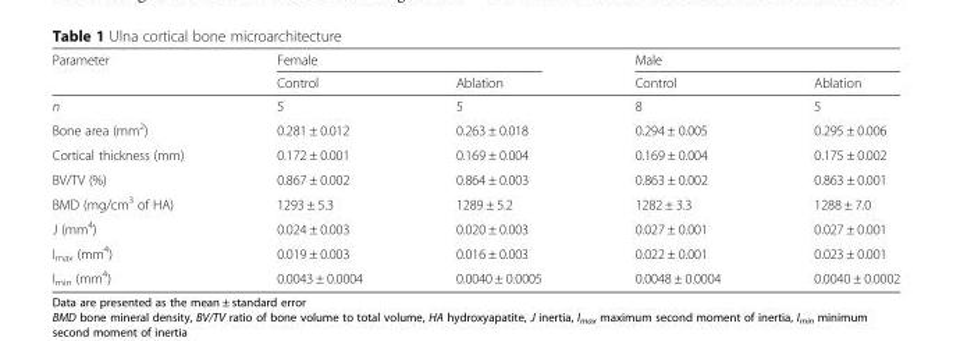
<table><thead><tr><td rowspan="2">Parameter</td><td colspan="2">Female</td><td colspan="2">Male</td></tr><tr><td>Control</td><td>Ablation</td><td>Control</td><td>Ablation</td></tr></thead><tbody><tr><td>n</td><td>5</td><td>5</td><td>8</td><td>5</td></tr><tr><td>Bone area (mm<sup>2</sup>)</td><td>0.281 ± 0.012</td><td>0.263 ± 0.018</td><td>0.294 ± 0.005</td><td>0.295 ± 0.006</td></tr><tr><td>Cortical thickness (mm)</td><td>0.172 ± 0.001</td><td>0.169 ± 0.004</td><td>0.169 ± 0.004</td><td>0.175 ± 0.002</td></tr><tr><td>BV/TV (%)</td><td>0.867 ± 0.002</td><td>0.864 ± 0.003</td><td>0.863 ± 0.002</td><td>0.863 ± 0.001</td></tr><tr><td>BMD (mg/cm<sup>3</sup> of HA)</td><td>1293 ± 5.3</td><td>1289 ± 5.2</td><td>1282 ± 3.3</td><td>1288 ± 7.0</td></tr><tr><td>J (mm<sup>4</sup>)</td><td>0.024 ± 0.003</td><td>0.020 ± 0.003</td><td>0.027 ± 0.001</td><td>0.027 ± 0.001</td></tr><tr><td>I<sub>max</sub> (mm<sup>4</sup>)</td><td>0.019 ± 0.003</td><td>0.016 ± 0.003</td><td>0.022 ± 0.001</td><td>0.023 ± 0.001</td></tr><tr><td>I<sub>min</sub> (mm<sup>4</sup>)</td><td>0.0043 ± 0.0004</td><td>0.0040 ± 0.0005</td><td>0.0048 ± 0.0004</td><td>0.0040 ± 0.0002</td></tr></tbody></table>